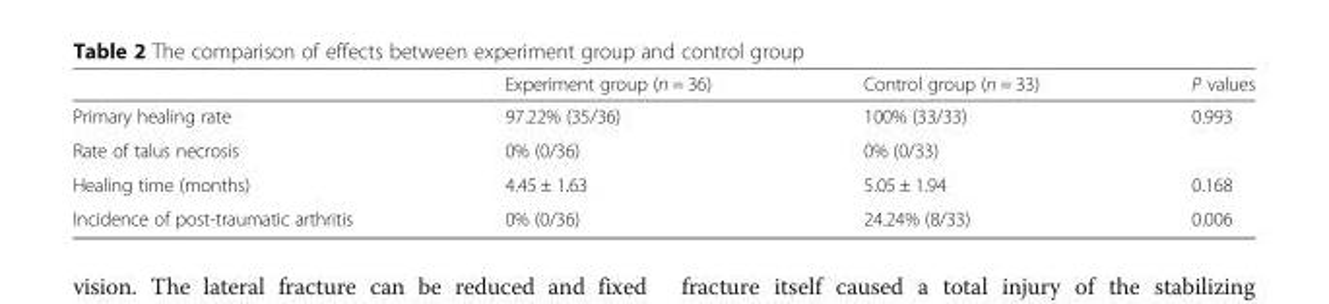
<table><thead><tr><td></td><td>Experiment group (n = 36)</td><td>Control group (n = 33)</td><td>P values</td></tr></thead><tbody><tr><td>Primary healing rate</td><td>97.22% (35/36)</td><td>100% (33/33)</td><td>0.993</td></tr><tr><td>Rate of talus necrosis</td><td>0% (0/36)</td><td>0% (0/33)</td><td></td></tr><tr><td>Healing time (months)</td><td>4.45 ± 1.63</td><td>5.05 ± 1.94</td><td>0.168</td></tr><tr><td>Incidence of post-traumatic arthritis</td><td>0% (0/36)</td><td>24.24% (8/33)</td><td>0.006</td></tr></tbody></table>